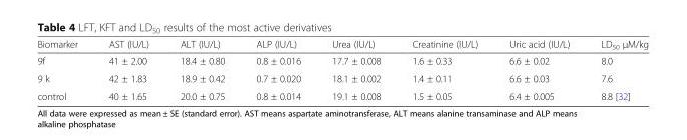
<table><thead><tr><td>Biomarker</td><td>AST (IU/L)</td><td>ALT (IU/L)</td><td>ALP (IU/L)</td><td>Urea (IU/L)</td><td>Creatinine (IU/L)</td><td>Uric acid (IU/L)</td><td>LD<sub>50</sub> μM/kg</td></tr></thead><tbody><tr><td>9f</td><td>41 ± 2.00</td><td>18.4 ± 0.80</td><td>0.8 ± 0.016</td><td>17.7 ± 0.008</td><td>1.6 ± 0.33</td><td>6.6 ± 0.02</td><td>8.0</td></tr><tr><td>9 k</td><td>42 ± 1.83</td><td>18.9 ± 0.42</td><td>0.7 ± 0.020</td><td>18.1 ± 0.002</td><td>1.4 ± 0.11</td><td>6.6 ± 0.03</td><td>7.6</td></tr><tr><td>control</td><td>40 ± 1.65</td><td>20.0 ± 0.75</td><td>0.8 ± 0.014</td><td>19.1 ± 0.008</td><td>1.5 ± 0.05</td><td>6.4 ± 0.005</td><td>8.8 [32]</td></tr></tbody></table>